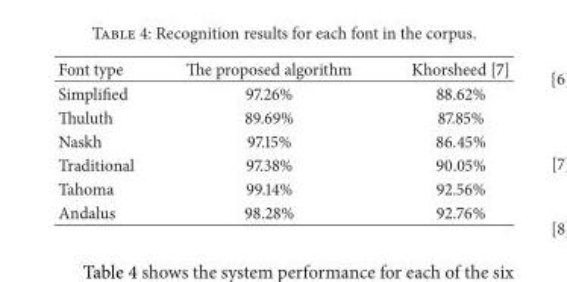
<table><thead><tr><td>Font type</td><td>The proposed algorithm</td><td>Khorsheed [7]</td></tr></thead><tbody><tr><td>Simplified</td><td>97.26%</td><td>88.62%</td></tr><tr><td>Thuluth</td><td>89.69%</td><td>87.85%</td></tr><tr><td>Naskh</td><td>97.15%</td><td>86.45%</td></tr><tr><td>Traditional</td><td>97.38%</td><td>90.05%</td></tr><tr><td>Tahoma</td><td>99.14%</td><td>92.56%</td></tr><tr><td>Andalus</td><td>98.28%</td><td>92.76%</td></tr></tbody></table>